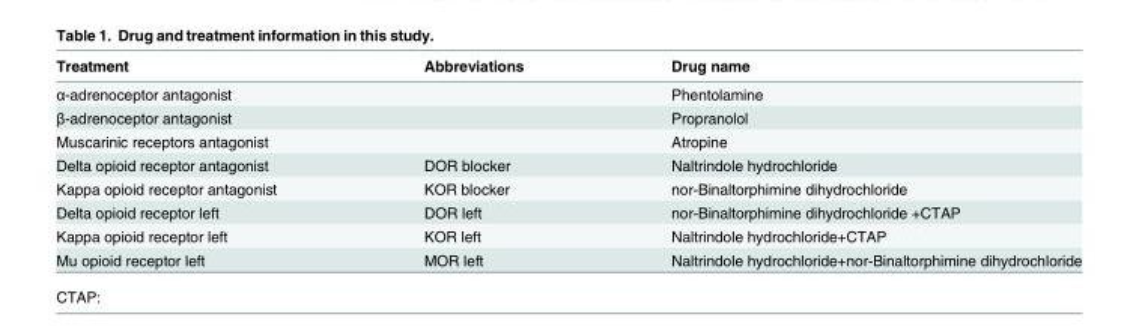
<table><thead><tr><td>Treatment</td><td>Abbreviations</td><td>Drug name</td></tr></thead><tbody><tr><td>α-adrenoceptor antagonist</td><td></td><td>Phentolamine</td></tr><tr><td>β-adrenoceptor antagonist</td><td></td><td>Propranolol</td></tr><tr><td>Muscarinic receptors antagonist</td><td></td><td>Atropine</td></tr><tr><td>Delta opioid receptor antagonist</td><td>DOR blocker</td><td>Naltrindole hydrochloride</td></tr><tr><td>Kappa opioid receptor antagonist</td><td>KOR blocker</td><td>nor-Binaltorphimine dihydrochloride</td></tr><tr><td>Delta opioid receptor left</td><td>DOR left</td><td>nor-Binaltorphimine dihydrochloride +CTAP</td></tr><tr><td>Kappa opioid receptor left</td><td>KOR left</td><td>Naltrindole hydrochloride+CTAP</td></tr><tr><td>Mu opioid receptor left</td><td>MOR left</td><td>Naltrindole hydrochloride+nor-Binaltorphimine dihydrochloride</td></tr></tbody></table>